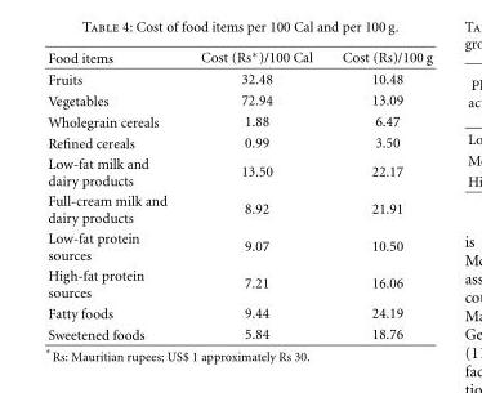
<table><thead><tr><td>Food items</td><td>Cost (Rs∗)/100 Cal</td><td>Cost (Rs)/100 g</td></tr></thead><tbody><tr><td>Fruits</td><td>32.48</td><td>10.48</td></tr><tr><td>Vegetables</td><td>72.94</td><td>13.09</td></tr><tr><td>Wholegrain cereals</td><td>1.88</td><td>6.47</td></tr><tr><td>Refined cereals</td><td>0.99</td><td>3.50</td></tr><tr><td>Low-fat milk and dairy products</td><td>13.50</td><td>22.17</td></tr><tr><td>Full-cream milk and dairy products</td><td>8.92</td><td>21.91</td></tr><tr><td>Low-fat protein sources</td><td>9.07</td><td>10.50</td></tr><tr><td>High-fat protein sources</td><td>7.21</td><td>16.06</td></tr><tr><td>Fatty foods</td><td>9.44</td><td>24.19</td></tr><tr><td>Sweetened foods</td><td>5.84</td><td>18.76</td></tr></tbody></table>